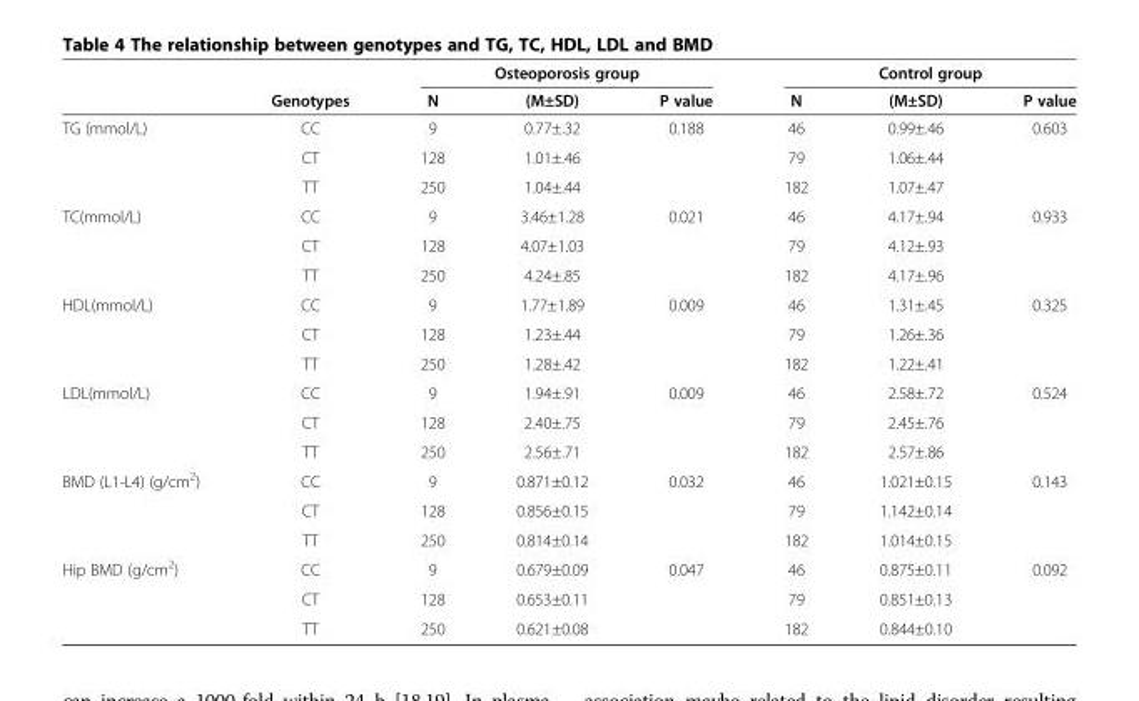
<table><thead><tr><td rowspan="2"></td><td rowspan="2">Genotypes</td><td colspan="3">Osteoporosis group</td><td colspan="3">Control group</td></tr><tr><td>N</td><td>(M±SD)</td><td>P value</td><td>N</td><td>(M±SD)</td><td>P value</td></tr></thead><tbody><tr><td rowspan="3">TG (mmol/L)</td><td>CC</td><td>9</td><td>0.77±.32</td><td rowspan="3">0.188</td><td>46</td><td>0.99±.46</td><td rowspan="3">0.603</td></tr><tr><td>CT</td><td>128</td><td>1.01±.46</td><td>79</td><td>1.06±.44</td></tr><tr><td>TT</td><td>250</td><td>1.04±.44</td><td>182</td><td>1.07±.47</td></tr><tr><td rowspan="3">TC(mmol/L)</td><td>CC</td><td>9</td><td>3.46±1.28</td><td rowspan="3">0.021</td><td>46</td><td>4.17±.94</td><td rowspan="3">0.933</td></tr><tr><td>CT</td><td>128</td><td>4.07±1.03</td><td>79</td><td>4.12±.93</td></tr><tr><td>TT</td><td>250</td><td>4.24±.85</td><td>182</td><td>4.17±.96</td></tr><tr><td rowspan="3">HDL(mmol/L)</td><td>CC</td><td>9</td><td>1.77±1.89</td><td rowspan="3">0.009</td><td>46</td><td>1.31±.45</td><td rowspan="3">0.325</td></tr><tr><td>CT</td><td>128</td><td>1.23±.44</td><td>79</td><td>1.26±.36</td></tr><tr><td>TT</td><td>250</td><td>1.28±.42</td><td>182</td><td>1.22±.41</td></tr><tr><td rowspan="3">LDL(mmol/L)</td><td>CC</td><td>9</td><td>1.94±.91</td><td rowspan="3">0.009</td><td>46</td><td>2.58±.72</td><td rowspan="3">0.524</td></tr><tr><td>CT</td><td>128</td><td>2.40±.75</td><td>79</td><td>2.45±.76</td></tr><tr><td>TT</td><td>250</td><td>2.56±.71</td><td>182</td><td>2.57±.86</td></tr><tr><td rowspan="3">BMD (L1-L4) (g/cm<sup>2</sup>)</td><td>CC</td><td>9</td><td>0.871±0.12</td><td rowspan="3">0.032</td><td>46</td><td>1.021±0.15</td><td rowspan="3">0.143</td></tr><tr><td>CT</td><td>128</td><td>0.856±0.15</td><td>79</td><td>1.142±0.14</td></tr><tr><td>TT</td><td>250</td><td>0.814±0.14</td><td>182</td><td>1.014±0.15</td></tr><tr><td rowspan="3">Hip BMD (g/cm<sup>2</sup>)</td><td>CC</td><td>9</td><td>0.679±0.09</td><td rowspan="3">0.047</td><td>46</td><td>0.875±0.11</td><td rowspan="3">0.092</td></tr><tr><td>CT</td><td>128</td><td>0.653±0.11</td><td>79</td><td>0.851±0.13</td></tr><tr><td>TT</td><td>250</td><td>0.621±0.08</td><td>182</td><td>0.844±0.10</td></tr></tbody></table>